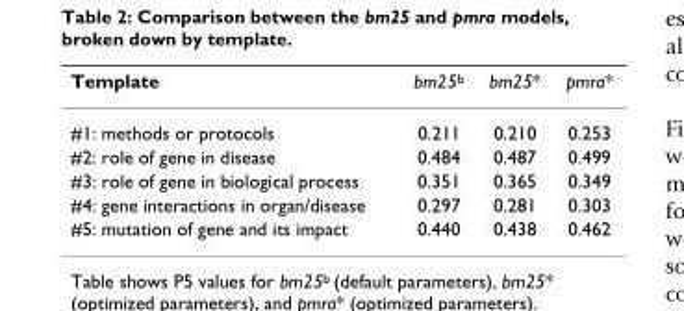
<table><thead><tr><td>Template</td><td>bm25<sup>b</sup></td><td>bm25*</td><td>pmra*</td></tr></thead><tbody><tr><td>#1: methods or protocols</td><td>0.211</td><td>0.210</td><td>0.253</td></tr><tr><td>#2: role of gene in disease</td><td>0.484</td><td>0.487</td><td>0.499</td></tr><tr><td>#3: role of gene in biological process</td><td>0.351</td><td>0.365</td><td>0.349</td></tr><tr><td>#4: gene interactions in organ/disease</td><td>0.297</td><td>0.281</td><td>0.303</td></tr><tr><td>#5: mutation of gene and its impact</td><td>0.440</td><td>0.438</td><td>0.462</td></tr></tbody></table>